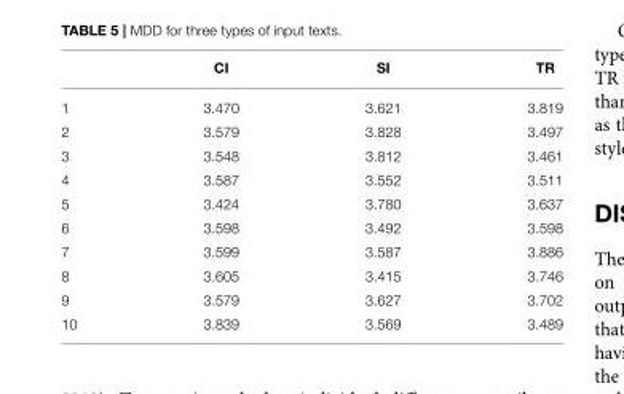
<table><thead><tr><td></td><td>CI</td><td>SI</td><td>TR</td></tr></thead><tbody><tr><td>1</td><td>3.470</td><td>3.621</td><td>3.819</td></tr><tr><td>2</td><td>3.579</td><td>3.828</td><td>3.497</td></tr><tr><td>3</td><td>3.548</td><td>3.812</td><td>3.461</td></tr><tr><td>4</td><td>3.587</td><td>3.552</td><td>3.511</td></tr><tr><td>5</td><td>3.424</td><td>3.780</td><td>3.637</td></tr><tr><td>6</td><td>3.598</td><td>3.492</td><td>3.598</td></tr><tr><td>7</td><td>3.599</td><td>3.587</td><td>3.886</td></tr><tr><td>8</td><td>3.605</td><td>3.415</td><td>3.746</td></tr><tr><td>9</td><td>3.579</td><td>3.627</td><td>3.702</td></tr><tr><td>10</td><td>3.839</td><td>3.569</td><td>3.489</td></tr></tbody></table>